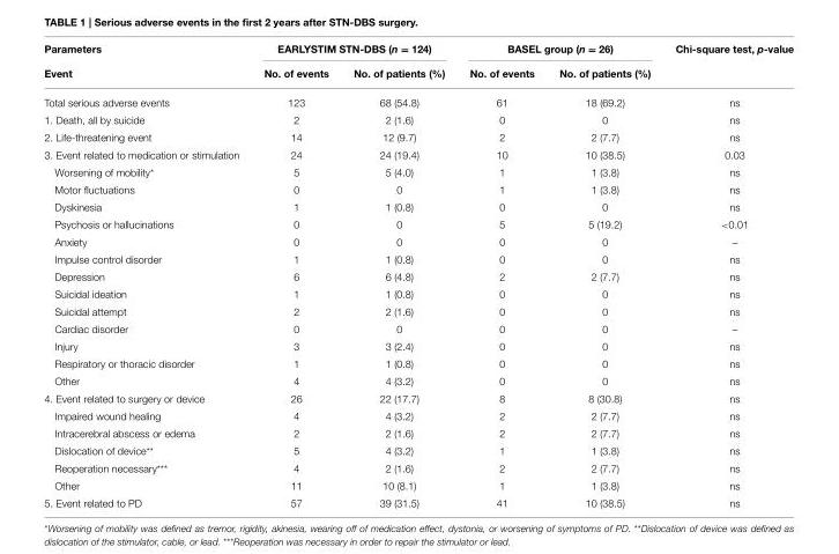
<table><thead><tr><td rowspan="2">Parameters Event</td><td colspan="2">EARLYSTIM STN-DBS (n = 124)</td><td colspan="2">BASEL group (n = 26)</td><td rowspan="2">Chi-square test, p-value</td></tr><tr><td>No. of events</td><td>No. of patients (%)</td><td>No. of events</td><td>No. of patients (%)</td></tr></thead><tbody><tr><td>Total serious adverse events</td><td>123</td><td>68 (54.8)</td><td>61</td><td>18 (69.2)</td><td>ns</td></tr><tr><td>1. Death, all by suicide</td><td>2</td><td>2 (1.6)</td><td>0</td><td>0</td><td>ns</td></tr><tr><td>2. Life-threatening event</td><td>14</td><td>12 (9.7)</td><td>2</td><td>2 (7.7)</td><td>ns</td></tr><tr><td>3. Event related to medication or stimulation</td><td>24</td><td>24 (19.4)</td><td>10</td><td>10 (38.5)</td><td>0.03</td></tr><tr><td>Worsening of mobility*</td><td>5</td><td>5 (4.0)</td><td>1</td><td>1 (3.8)</td><td>ns</td></tr><tr><td>Motor fluctuations</td><td>0</td><td>0</td><td>1</td><td>1 (3.8)</td><td>ns</td></tr><tr><td>Dyskinesia</td><td>1</td><td>1 (0.8)</td><td>0</td><td>0</td><td>ns</td></tr><tr><td>Psychosis or hallucinations</td><td>0</td><td>0</td><td>5</td><td>5 (19.2)</td><td>&lt;0.01</td></tr><tr><td>Anxiety</td><td>0</td><td>0</td><td>0</td><td>0</td><td>–</td></tr><tr><td>Impulse control disorder</td><td>1</td><td>1 (0.8)</td><td>0</td><td>0</td><td>ns</td></tr><tr><td>Depression</td><td>6</td><td>6 (4.8)</td><td>2</td><td>2 (7.7)</td><td>ns</td></tr><tr><td>Suicidal ideation</td><td>1</td><td>1 (0.8)</td><td>0</td><td>0</td><td>ns</td></tr><tr><td>Suicidal attempt</td><td>2</td><td>2 (1.6)</td><td>0</td><td>0</td><td>ns</td></tr><tr><td>Cardiac disorder</td><td>0</td><td>0</td><td>0</td><td>0</td><td>–</td></tr><tr><td>Injury</td><td>3</td><td>3 (2.4)</td><td>0</td><td>0</td><td>ns</td></tr><tr><td>Respiratory or thoracic disorder</td><td>1</td><td>1 (0.8)</td><td>0</td><td>0</td><td>ns</td></tr><tr><td>Other</td><td>4</td><td>4 (3.2)</td><td>0</td><td>0</td><td>ns</td></tr><tr><td>4. Event related to surgery or device</td><td>26</td><td>22 (17.7)</td><td>8</td><td>8 (30.8)</td><td>ns</td></tr><tr><td>Impaired wound healing</td><td>4</td><td>4 (3.2)</td><td>2</td><td>2 (7.7)</td><td>ns</td></tr><tr><td>Intracerebral abscess or edema</td><td>2</td><td>2 (1.6)</td><td>2</td><td>2 (7.7)</td><td>ns</td></tr><tr><td>Dislocation of device**</td><td>5</td><td>4 (3.2)</td><td>1</td><td>1 (3.8)</td><td>ns</td></tr><tr><td>Reoperation necessary***</td><td>4</td><td>2 (1.6)</td><td>2</td><td>2 (7.7)</td><td>ns</td></tr><tr><td>Other</td><td>11</td><td>10 (8.1)</td><td>1</td><td>1 (3.8)</td><td>ns</td></tr><tr><td>5. Event related to PD</td><td>57</td><td>39 (31.5)</td><td>41</td><td>10 (38.5)</td><td>ns</td></tr></tbody></table>